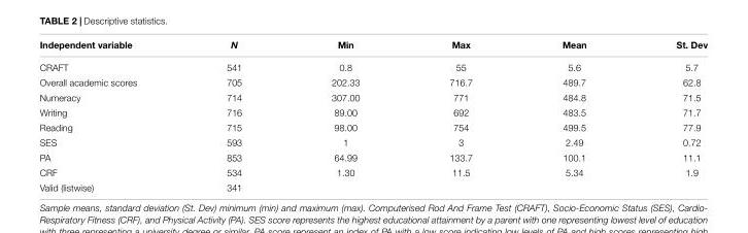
<table><thead><tr><td>Independent variable</td><td>N</td><td>Min</td><td>Max</td><td>Mean</td><td>St. Dev</td></tr></thead><tbody><tr><td>CRAFT</td><td>541</td><td>0.8</td><td>55</td><td>5.6</td><td>5.7</td></tr><tr><td>Overall academic scores</td><td>705</td><td>202.33</td><td>716.7</td><td>489.7</td><td>62.8</td></tr><tr><td>Numeracy</td><td>714</td><td>307.00</td><td>771</td><td>484.8</td><td>71.5</td></tr><tr><td>Writing</td><td>716</td><td>89.00</td><td>692</td><td>483.5</td><td>71.7</td></tr><tr><td>Reading</td><td>715</td><td>98.00</td><td>754</td><td>499.5</td><td>77.9</td></tr><tr><td>SES</td><td>593</td><td>1</td><td>3</td><td>2.49</td><td>0.72</td></tr><tr><td>PA</td><td>853</td><td>64.99</td><td>133.7</td><td>100.1</td><td>11.1</td></tr><tr><td>CRF</td><td>534</td><td>1.30</td><td>11.5</td><td>5.34</td><td>1.9</td></tr><tr><td>Valid (listwise)</td><td>341</td><td></td><td></td><td></td><td></td></tr></tbody></table>